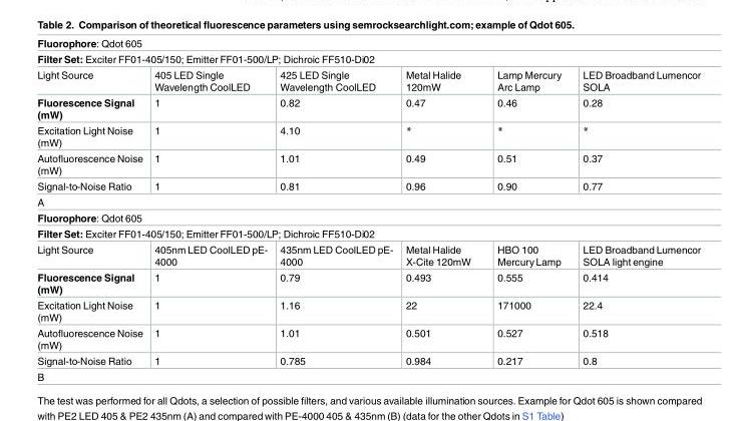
<table><tbody><tr><td colspan="6">Fluorophore: Qdot 605</td></tr><tr><td colspan="6">Filter Set: Exciter FF01-405/150; Emitter FF01-500/LP; Dichroic FF510-Di02</td></tr><tr><td>Light Source</td><td>405 LED Single Wavelength CoolLED</td><td>425 LED Single Wavelength CoolLED</td><td>Metal Halide 120mW</td><td>Lamp Mercury Arc Lamp</td><td>LED Broadband Lumencor SOLA</td></tr><tr><td>Fluorescence Signal (mW)</td><td>1</td><td>0.82</td><td>0.47</td><td>0.46</td><td>0.28</td></tr><tr><td>Excitation Light Noise (mW)</td><td>1</td><td>4.10</td><td>*</td><td>*</td><td>*</td></tr><tr><td>Autofluorescence Noise (mW)</td><td>1</td><td>1.01</td><td>0.49</td><td>0.51</td><td>0.37</td></tr><tr><td>Signal-to-Noise Ratio</td><td>1</td><td>0.81</td><td>0.96</td><td>0.90</td><td>0.77</td></tr><tr><td colspan="6">A</td></tr><tr><td colspan="6">Fluorophore: Qdot 605</td></tr><tr><td colspan="6">Filter Set: Exciter FF01-405/150; Emitter FF01-500/LP; Dichroic FF510-Di02</td></tr><tr><td>Light Source</td><td>405nm LED CoolLED pE- 4000</td><td>435nm LED CoolLED pE- 4000</td><td>Metal Halide X-Cite 120mW</td><td>HBO 100 Mercury Lamp</td><td>LED Broadband Lumencor SOLA light engine</td></tr><tr><td>Fluorescence Signal (mW)</td><td>1</td><td>0.79</td><td>0.493</td><td>0.555</td><td>0.414</td></tr><tr><td>Excitation Light Noise (mW)</td><td>1</td><td>1.16</td><td>22</td><td>171000</td><td>22.4</td></tr><tr><td>Autofluorescence Noise (mW)</td><td>1</td><td>1.01</td><td>0.501</td><td>0.527</td><td>0.518</td></tr><tr><td>Signal-to-Noise Ratio</td><td>1</td><td>0.785</td><td>0.984</td><td>0.217</td><td>0.8</td></tr><tr><td colspan="6">B</td></tr></tbody></table>